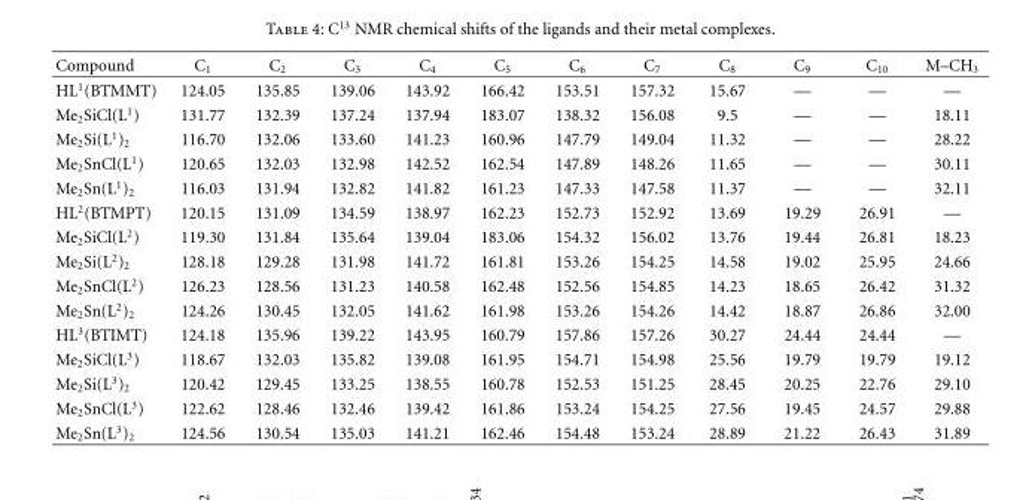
<table><thead><tr><td>Compound</td><td>C<sub>1</sub></td><td>C<sub>2</sub></td><td>C<sub>3</sub></td><td>C<sub>4</sub></td><td>C<sub>5</sub></td><td>C<sub>6</sub></td><td>C<sub>7</sub></td><td>C<sub>8</sub></td><td>C<sub>9</sub></td><td>C<sub>10</sub></td><td>M–CH<sub>3</sub></td></tr></thead><tbody><tr><td>HL<sup>1</sup>(BTMMT)</td><td>124.05</td><td>135.85</td><td>139.06</td><td>143.92</td><td>166.42</td><td>153.51</td><td>157.32</td><td>15.67</td><td>—</td><td>—</td><td>—</td></tr><tr><td>Me<sub>2</sub>SiCl(L<sup>1</sup>)</td><td>131.77</td><td>132.39</td><td>137.24</td><td>137.94</td><td>183.07</td><td>138.32</td><td>156.08</td><td>9.5</td><td>—</td><td>—</td><td>18.11</td></tr><tr><td>Me<sub>2</sub>Si(L<sup>1</sup>)<sub>2</sub></td><td>116.70</td><td>132.06</td><td>133.60</td><td>141.23</td><td>160.96</td><td>147.79</td><td>149.04</td><td>11.32</td><td>—</td><td>—</td><td>28.22</td></tr><tr><td>Me<sub>2</sub>SnCl(L<sup>1</sup>)</td><td>120.65</td><td>132.03</td><td>132.98</td><td>142.52</td><td>162.54</td><td>147.89</td><td>148.26</td><td>11.65</td><td>—</td><td>—</td><td>30.11</td></tr><tr><td>Me<sub>2</sub>Sn(L<sup>1</sup>)<sub>2</sub></td><td>116.03</td><td>131.94</td><td>132.82</td><td>141.82</td><td>161.23</td><td>147.33</td><td>147.58</td><td>11.37</td><td>—</td><td>—</td><td>32.11</td></tr><tr><td>HL<sup>2</sup>(BTMPT)</td><td>120.15</td><td>131.09</td><td>134.59</td><td>138.97</td><td>162.23</td><td>152.73</td><td>152.92</td><td>13.69</td><td>19.29</td><td>26.91</td><td>—</td></tr><tr><td>Me<sub>2</sub>SiCl(L<sup>2</sup>)</td><td>119.30</td><td>131.84</td><td>135.64</td><td>139.04</td><td>183.06</td><td>154.32</td><td>156.02</td><td>13.76</td><td>19.44</td><td>26.81</td><td>18.23</td></tr><tr><td>Me<sub>2</sub>Si(L<sup>2</sup>)<sub>2</sub></td><td>128.18</td><td>129.28</td><td>131.98</td><td>141.72</td><td>161.81</td><td>153.26</td><td>154.25</td><td>14.58</td><td>19.02</td><td>25.95</td><td>24.66</td></tr><tr><td>Me<sub>2</sub>SnCl(L<sup>2</sup>)</td><td>126.23</td><td>128.56</td><td>131.23</td><td>140.58</td><td>162.48</td><td>152.56</td><td>154.85</td><td>14.23</td><td>18.65</td><td>26.42</td><td>31.32</td></tr><tr><td>Me<sub>2</sub>Sn(L<sup>2</sup>)<sub>2</sub></td><td>124.26</td><td>130.45</td><td>132.05</td><td>141.62</td><td>161.98</td><td>153.26</td><td>154.26</td><td>14.42</td><td>18.87</td><td>26.86</td><td>32.00</td></tr><tr><td>HL<sup>3</sup>(BTIMT)</td><td>124.18</td><td>135.96</td><td>139.22</td><td>143.95</td><td>160.79</td><td>157.86</td><td>157.26</td><td>30.27</td><td>24.44</td><td>24.44</td><td>—</td></tr><tr><td>Me<sub>2</sub>SiCl(L<sup>3</sup>)</td><td>118.67</td><td>132.03</td><td>135.82</td><td>139.08</td><td>161.95</td><td>154.71</td><td>154.98</td><td>25.56</td><td>19.79</td><td>19.79</td><td>19.12</td></tr><tr><td>Me<sub>2</sub>Si(L<sup>3</sup>)<sub>2</sub></td><td>120.42</td><td>129.45</td><td>133.25</td><td>138.55</td><td>160.78</td><td>152.53</td><td>151.25</td><td>28.45</td><td>20.25</td><td>22.76</td><td>29.10</td></tr><tr><td>Me<sub>2</sub>SnCl(L<sup>3</sup>)</td><td>122.62</td><td>128.46</td><td>132.46</td><td>139.42</td><td>161.86</td><td>153.24</td><td>154.25</td><td>27.56</td><td>19.45</td><td>24.57</td><td>29.88</td></tr><tr><td>Me<sub>2</sub>Sn(L<sup>3</sup>)<sub>2</sub></td><td>124.56</td><td>130.54</td><td>135.03</td><td>141.21</td><td>162.46</td><td>154.48</td><td>153.24</td><td>28.89</td><td>21.22</td><td>26.43</td><td>31.89</td></tr></tbody></table>